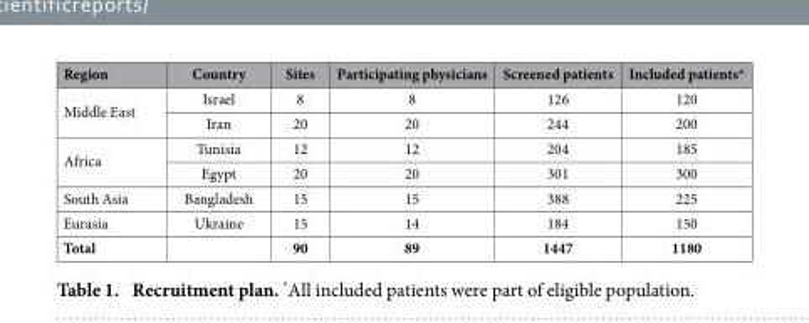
<table><thead><tr><td>Region</td><td>Country</td><td>Sites</td><td>Participating physicians</td><td>Screened patients</td><td>Included patients*</td></tr></thead><tbody><tr><td rowspan="2">Middle East</td><td>Israel</td><td>8</td><td>8</td><td>126</td><td>120</td></tr><tr><td>Iran</td><td>20</td><td>20</td><td>244</td><td>200</td></tr><tr><td rowspan="2">Africa</td><td>Tunisia</td><td>12</td><td>12</td><td>204</td><td>185</td></tr><tr><td>Egypt</td><td>20</td><td>20</td><td>301</td><td>300</td></tr><tr><td>South Asia</td><td>Bangladesh</td><td>15</td><td>15</td><td>388</td><td>225</td></tr><tr><td>Eurasia</td><td>Ukraine</td><td>15</td><td>14</td><td>184</td><td>150</td></tr><tr><td>Total</td><td></td><td>90</td><td>89</td><td>1447</td><td>1180</td></tr></tbody></table>